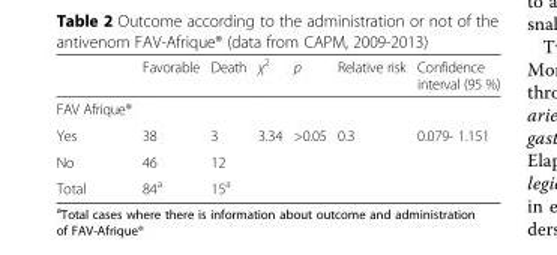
<table><thead><tr><td></td><td>Favorable</td><td>Death</td><td>χ<sup>2</sup></td><td>p</td><td>Relative risk</td><td>Confidence interval (95 %)</td></tr></thead><tbody><tr><td colspan="7">FAV Afrique®</td></tr><tr><td>Yes</td><td>38</td><td>3</td><td rowspan="2">3.34</td><td rowspan="2">&gt;0.05</td><td rowspan="2">0.3</td><td rowspan="2">0.079- 1.151</td></tr><tr><td>No</td><td>46</td><td>12</td></tr><tr><td>Total</td><td>84<sup>a</sup></td><td>15<sup>a</sup></td><td></td><td></td><td></td><td></td></tr></tbody></table>